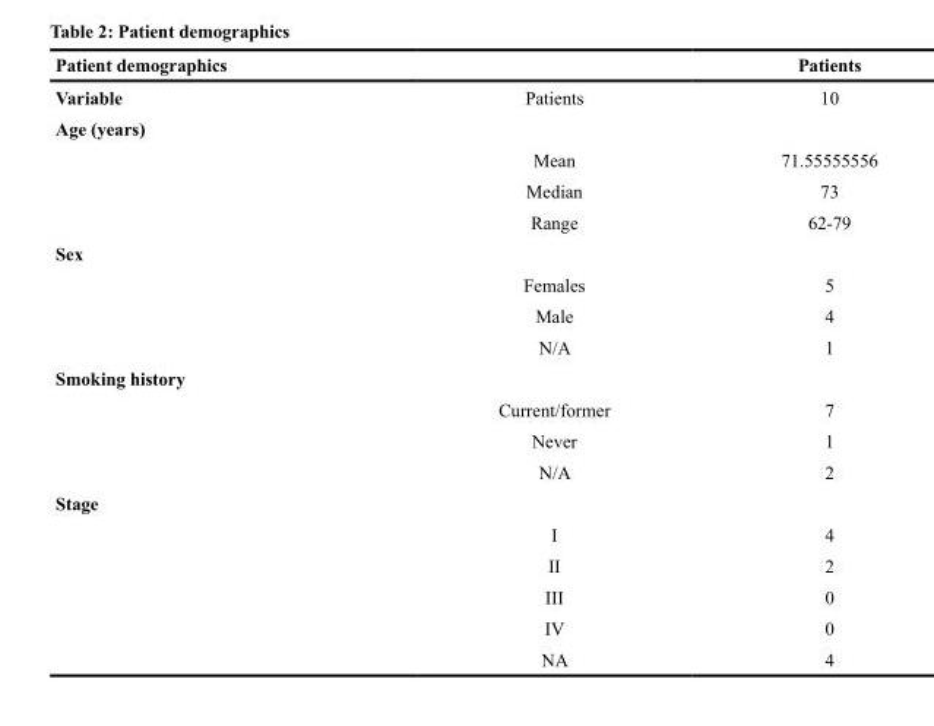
<table><thead><tr><td>Patient demographics</td><td></td><td>Patients</td></tr></thead><tbody><tr><td>Variable</td><td>Patients</td><td>10</td></tr><tr><td colspan="3">Age (years)</td></tr><tr><td></td><td>Mean</td><td>71.55555556</td></tr><tr><td></td><td>Median</td><td>73</td></tr><tr><td></td><td>Range</td><td>62-79</td></tr><tr><td colspan="3">Sex</td></tr><tr><td></td><td>Females</td><td>5</td></tr><tr><td></td><td>Male</td><td>4</td></tr><tr><td></td><td>N/A</td><td>1</td></tr><tr><td colspan="3">Smoking history</td></tr><tr><td></td><td>Current/former</td><td>7</td></tr><tr><td></td><td>Never</td><td>1</td></tr><tr><td></td><td>N/A</td><td>2</td></tr><tr><td colspan="3">Stage</td></tr><tr><td></td><td>I</td><td>4</td></tr><tr><td></td><td>II</td><td>2</td></tr><tr><td></td><td>III</td><td>0</td></tr><tr><td></td><td>IV</td><td>0</td></tr><tr><td></td><td>NA</td><td>4</td></tr></tbody></table>